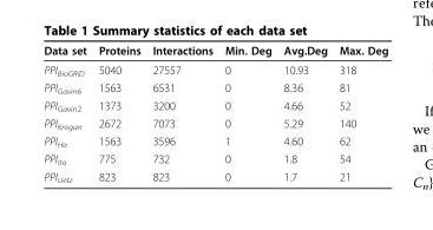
<table><thead><tr><td>Data set</td><td>Proteins</td><td>Interactions</td><td>Min. Deg</td><td>Avg.Deg</td><td>Max. Deg</td></tr></thead><tbody><tr><td>PPI<sub>BioGRID</sub></td><td>5040</td><td>27557</td><td>0</td><td>10.93</td><td>318</td></tr><tr><td>PPI<sub>Gavin6</sub></td><td>1563</td><td>6531</td><td>0</td><td>8.36</td><td>81</td></tr><tr><td>PPI<sub>Gavin2</sub></td><td>1373</td><td>3200</td><td>0</td><td>4.66</td><td>52</td></tr><tr><td>PPI<sub>Krogan</sub></td><td>2672</td><td>7073</td><td>0</td><td>5.29</td><td>140</td></tr><tr><td>PPI<sub>Ho</sub></td><td>1563</td><td>3596</td><td>1</td><td>4.60</td><td>62</td></tr><tr><td>PPI<sub>Ito</sub></td><td>775</td><td>732</td><td>0</td><td>1.8</td><td>54</td></tr><tr><td>PPI<sub>Uetz</sub></td><td>823</td><td>823</td><td>0</td><td>1.7</td><td>21</td></tr></tbody></table>